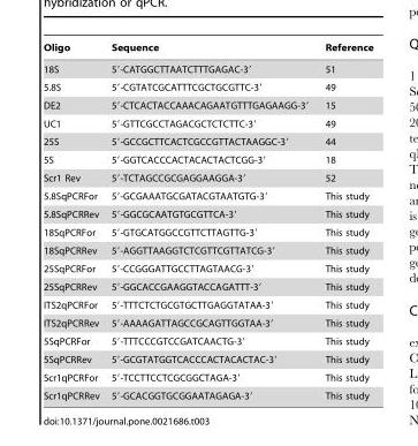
<table><thead><tr><td>Oligo</td><td>Sequence</td><td>Reference</td></tr></thead><tbody><tr><td>18S</td><td>5′-CATGGCTTAATCTTTGAGAC-3′</td><td>51</td></tr><tr><td>5.8S</td><td>5′-CGTATCGCATTTCGCTGCGTTC-3′</td><td>49</td></tr><tr><td>DE2</td><td>5′-CTCACTACCAAACAGAATGTTTGAGAAGG-3′</td><td>15</td></tr><tr><td>UC1</td><td>5′-GTTCGCCTAGACGCTCTCTTC-3′</td><td>49</td></tr><tr><td>25S</td><td>5′-GCCGCTTCACTCGCCGTTACTAAGGC-3′</td><td>44</td></tr><tr><td>5S</td><td>5′-GGTCACCCACTACACTACTCGG-3′</td><td>18</td></tr><tr><td>Scr1 Rev</td><td>5′-TCTAGCCGCGAGGAAGGA-3′</td><td>52</td></tr><tr><td>5.8SqPCRFor</td><td>5′-GCGAAATGCGATACGTAATGTG-3′</td><td>This study</td></tr><tr><td>5.8SqPCRRev</td><td>5′-GGCGCAATGTGCGTTCA-3′</td><td>This study</td></tr><tr><td>18SqPCRFor</td><td>5′-GTGCATGGCCGTTCTTAGTTG-3′</td><td>This study</td></tr><tr><td>18SqPCRRev</td><td>5′-AGGTTAAGGTCTCGTTCGTTATCG-3′</td><td>This study</td></tr><tr><td>25SqPCRFor</td><td>5′-CCGGGATTGCCTTAGTAACG-3′</td><td>This study</td></tr><tr><td>25SqPCRRev</td><td>5′-GGCACCGAAGGTACCAGATTT-3′</td><td>This study</td></tr><tr><td>ITS2qPCRFor</td><td>5′-TTTCTCTGCGTGCTTGAGGTATAA-3′</td><td>This study</td></tr><tr><td>ITS2qPCRRev</td><td>5′-AAAAGATTAGCCGCAGTTGGTAA-3′</td><td>This study</td></tr><tr><td>5SqPCRFor</td><td>5′-TTTCCCGTCCGATCAACTG-3′</td><td>This study</td></tr><tr><td>5SqPCRRev</td><td>5′-GCGTATGGTCACCCACTACACTAC-3′</td><td>This study</td></tr><tr><td>Scr1qPCRFor</td><td>5′-TCCTTCCTCGCGGCTAGA-3′</td><td>This study</td></tr><tr><td>Scr1qPCRRev</td><td>5′-GCACGGTGCGGAATAGAGA-3′</td><td>This study</td></tr></tbody></table>